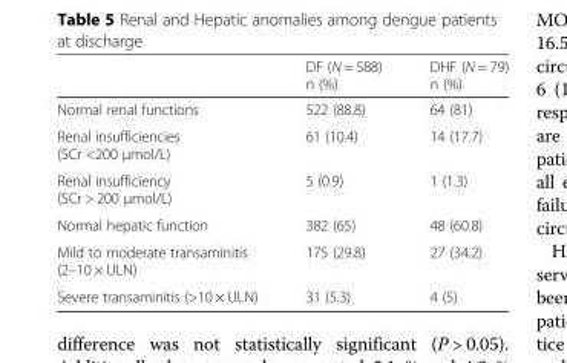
<table><thead><tr><td></td><td>DF (N = 588) n (%)</td><td>DHF (N = 79) n (%)</td></tr></thead><tbody><tr><td>Normal renal functions</td><td>522 (88.8)</td><td>64 (81)</td></tr><tr><td>Renal insufficiencies (SCr &lt;200 μmol/L)</td><td>61 (10.4)</td><td>14 (17.7)</td></tr><tr><td>Renal insufficiency (SCr &gt; 200 μmol/L)</td><td>5 (0.9)</td><td>1 (1.3)</td></tr><tr><td>Normal hepatic function</td><td>382 (65)</td><td>48 (60.8)</td></tr><tr><td>Mild to moderate transaminitis (2–10 × ULN)</td><td>175 (29.8)</td><td>27 (34.2)</td></tr><tr><td>Severe transaminitis (&gt;10 × ULN)</td><td>31 (5.3)</td><td>4 (5)</td></tr></tbody></table>